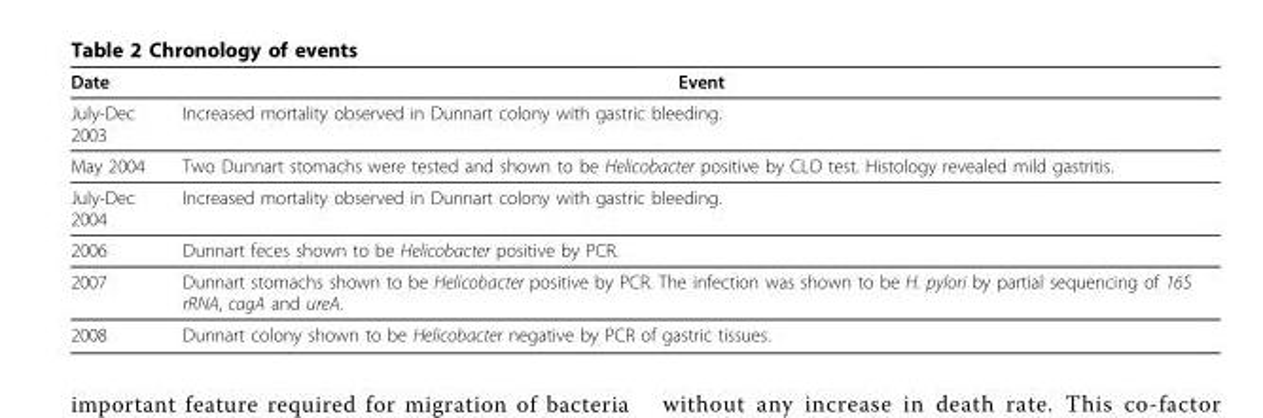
<table><thead><tr><td>Date</td><td>Event</td></tr></thead><tbody><tr><td>July-Dec 2003</td><td>Increased mortality observed in Dunnart colony with gastric bleeding.</td></tr><tr><td>May 2004</td><td>Two Dunnart stomachs were tested and shown to be Helicobacter positive by CLO test. Histology revealed mild gastritis.</td></tr><tr><td>July-Dec 2004</td><td>Increased mortality observed in Dunnart colony with gastric bleeding.</td></tr><tr><td>2006</td><td>Dunnart feces shown to be Helicobacter positive by PCR.</td></tr><tr><td>2007</td><td>Dunnart stomachs shown to be Helicobacter positive by PCR. The infection was shown to be H. pylori by partial sequencing of 16S rRNA, cagA and ureA.</td></tr><tr><td>2008</td><td>Dunnart colony shown to be Helicobacter negative by PCR of gastric tissues.</td></tr></tbody></table>